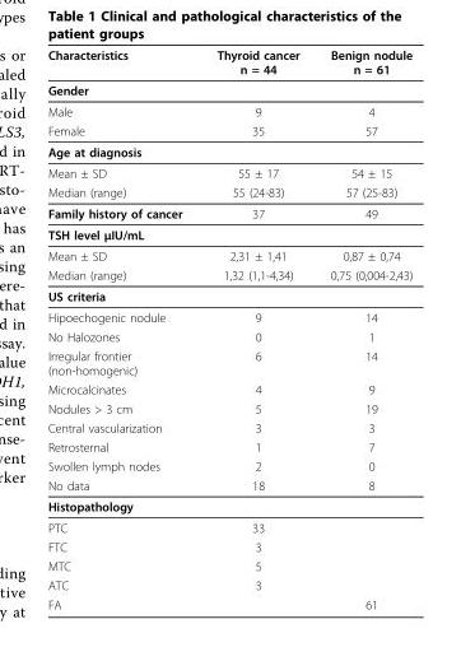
<table><thead><tr><td>Characteristics</td><td>Thyroid cancer n = 44</td><td>Benign nodule n = 61</td></tr></thead><tbody><tr><td colspan="3">Gender</td></tr><tr><td>Male</td><td>9</td><td>4</td></tr><tr><td>Female</td><td>35</td><td>57</td></tr><tr><td colspan="3">Age at diagnosis</td></tr><tr><td>Mean ± SD</td><td>55 ± 17</td><td>54 ± 15</td></tr><tr><td>Median (range)</td><td>55 (24-83)</td><td>57 (25-83)</td></tr><tr><td>Family history of cancer</td><td>37</td><td>49</td></tr><tr><td colspan="3">TSH level μIU/mL</td></tr><tr><td>Mean ± SD</td><td>2,31 ± 1,41</td><td>0,87 ± 0,74</td></tr><tr><td>Median (range)</td><td>1,32 (1,1-4,34)</td><td>0,75 (0,004-2,43)</td></tr><tr><td colspan="3">US criteria</td></tr><tr><td>Hipoechogenic nodule</td><td>9</td><td>14</td></tr><tr><td>No Halozones</td><td>0</td><td>1</td></tr><tr><td>Irregular frontier (non-homogenic)</td><td>6</td><td>14</td></tr><tr><td>Microcalcinates</td><td>4</td><td>9</td></tr><tr><td>Nodules &gt; 3 cm</td><td>5</td><td>19</td></tr><tr><td>Central vascularization</td><td>3</td><td>3</td></tr><tr><td>Retrosternal</td><td>1</td><td>7</td></tr><tr><td>Swollen lymph nodes</td><td>2</td><td>0</td></tr><tr><td>No data</td><td>18</td><td>8</td></tr><tr><td colspan="3">Histopathology</td></tr><tr><td>PTC</td><td>33</td><td></td></tr><tr><td>FTC</td><td>3</td><td></td></tr><tr><td>MTC</td><td>5</td><td></td></tr><tr><td>ATC</td><td>3</td><td></td></tr><tr><td>FA</td><td></td><td>61</td></tr></tbody></table>